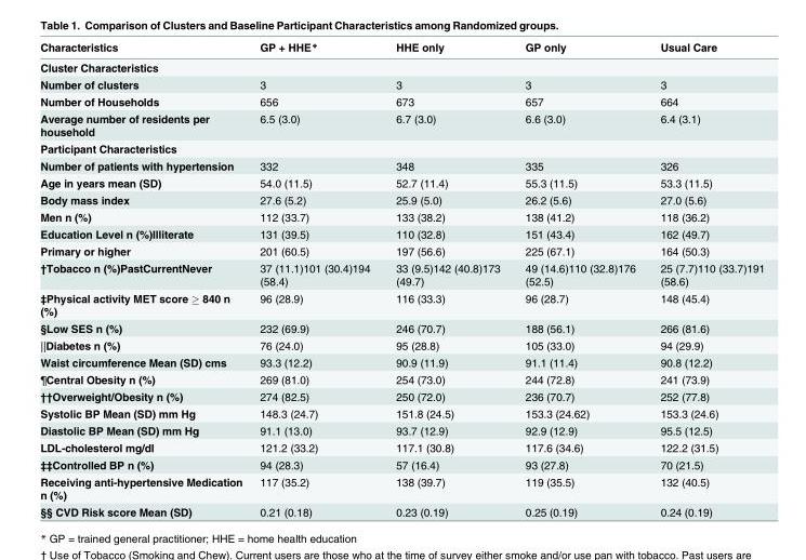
<table><thead><tr><td>Characteristics</td><td>GP + HHE*</td><td>HHE only</td><td>GP only</td><td>Usual Care</td></tr></thead><tbody><tr><td colspan="5">Cluster Characteristics</td></tr><tr><td>Number of clusters</td><td>3</td><td>3</td><td>3</td><td>3</td></tr><tr><td>Number of Households</td><td>656</td><td>673</td><td>657</td><td>664</td></tr><tr><td>Average number of residents per household</td><td>6.5 (3.0)</td><td>6.7 (3.0)</td><td>6.6 (3.0)</td><td>6.4 (3.1)</td></tr><tr><td colspan="5">Participant Characteristics</td></tr><tr><td>Number of patients with hypertension</td><td>332</td><td>348</td><td>335</td><td>326</td></tr><tr><td>Age in years mean (SD)</td><td>54.0 (11.5)</td><td>52.7 (11.4)</td><td>55.3 (11.5)</td><td>53.3 (11.5)</td></tr><tr><td>Body mass index</td><td>27.6 (5.2)</td><td>25.9 (5.0)</td><td>26.2 (5.6)</td><td>27.0 (5.6)</td></tr><tr><td>Men n (%)</td><td>112 (33.7)</td><td>133 (38.2)</td><td>138 (41.2)</td><td>118 (36.2)</td></tr><tr><td>Education Level n (%)Illiterate</td><td>131 (39.5)</td><td>110 (32.8)</td><td>151 (43.4)</td><td>162 (49.7)</td></tr><tr><td>Primary or higher</td><td>201 (60.5)</td><td>197 (56.6)</td><td>225 (67.1)</td><td>164 (50.3)</td></tr><tr><td>†Tobacco n (%)PastCurrentNever</td><td>37 (11.1)101 (30.4)194 (58.4)</td><td>33 (9.5)142 (40.8)173 (49.7)</td><td>49 (14.6)110 (32.8)176 (52.5)</td><td>25 (7.7)110 (33.7)191 (58.6)</td></tr><tr><td>‡Physical activity MET score ≥ 840 n (%)</td><td>96 (28.9)</td><td>116 (33.3)</td><td>96 (28.7)</td><td>148 (45.4)</td></tr><tr><td>§Low SES n (%)</td><td>232 (69.9)</td><td>246 (70.7)</td><td>188 (56.1)</td><td>266 (81.6)</td></tr><tr><td>||Diabetes n (%)</td><td>76 (24.0)</td><td>95 (28.8)</td><td>105 (33.0)</td><td>94 (29.9)</td></tr><tr><td>Waist circumference Mean (SD) cms</td><td>93.3 (12.2)</td><td>90.9 (11.9)</td><td>91.1 (11.4)</td><td>90.8 (12.2)</td></tr><tr><td>¶Central Obesity n (%)</td><td>269 (81.0)</td><td>254 (73.0)</td><td>244 (72.8)</td><td>241 (73.9)</td></tr><tr><td>††Overweight/Obesity n (%)</td><td>274 (82.5)</td><td>250 (72.0)</td><td>236 (70.7)</td><td>252 (77.8)</td></tr><tr><td>Systolic BP Mean (SD) mm Hg</td><td>148.3 (24.7)</td><td>151.8 (24.5)</td><td>153.3 (24.62)</td><td>153.3 (24.6)</td></tr><tr><td>Diastolic BP Mean (SD) mm Hg</td><td>91.1 (13.0)</td><td>93.7 (12.9)</td><td>92.9 (12.9)</td><td>95.5 (12.5)</td></tr><tr><td>LDL-cholesterol mg/dl</td><td>121.2 (33.2)</td><td>117.1 (30.8)</td><td>117.6 (34.6)</td><td>122.2 (31.5)</td></tr><tr><td>‡‡Controlled BP n (%)</td><td>94 (28.3)</td><td>57 (16.4)</td><td>93 (27.8)</td><td>70 (21.5)</td></tr><tr><td>Receiving anti-hypertensive Medication n (%)</td><td>117 (35.2)</td><td>138 (39.7)</td><td>119 (35.5)</td><td>132 (40.5)</td></tr><tr><td>§§ CVD Risk score Mean (SD)</td><td>0.21 (0.18)</td><td>0.23 (0.19)</td><td>0.25 (0.19)</td><td>0.24 (0.19)</td></tr></tbody></table>